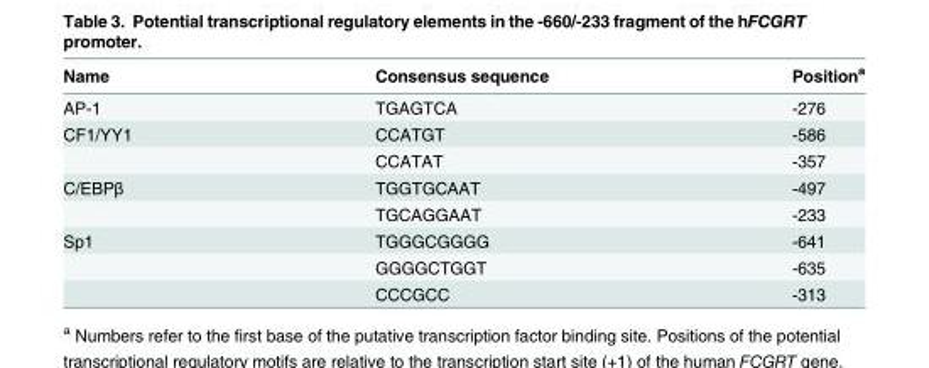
<table><thead><tr><td>Name</td><td>Consensus sequence</td><td>Position<sup>a</sup></td></tr></thead><tbody><tr><td>AP-1</td><td>TGAGTCA</td><td>-276</td></tr><tr><td rowspan="2">CF1/YY1</td><td>CCATGT</td><td>-586</td></tr><tr><td>CCATAT</td><td>-357</td></tr><tr><td rowspan="2">C/EBPβ</td><td>TGGTGCAAT</td><td>-497</td></tr><tr><td>TGCAGGAAT</td><td>-233</td></tr><tr><td rowspan="3">Sp1</td><td>TGGGCGGGG</td><td>-641</td></tr><tr><td>GGGGCTGGT</td><td>-635</td></tr><tr><td>CCCGCC</td><td>-313</td></tr></tbody></table>